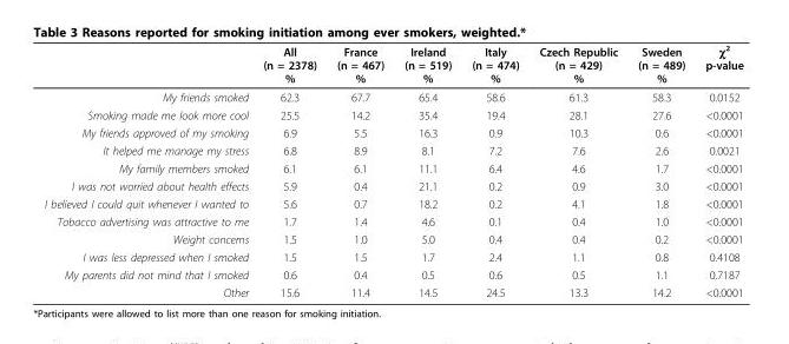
<table><thead><tr><td></td><td>All (n = 2378) %</td><td>France (n = 467) %</td><td>Ireland (n = 519) %</td><td>Italy (n = 474) %</td><td>Czech Republic (n = 429) %</td><td>Sweden (n = 489) %</td><td>χ<sup>2</sup> p-value</td></tr></thead><tbody><tr><td>My friends smoked</td><td>62.3</td><td>67.7</td><td>65.4</td><td>58.6</td><td>61.3</td><td>58.3</td><td>0.0152</td></tr><tr><td>Smoking made me look more cool</td><td>25.5</td><td>14.2</td><td>35.4</td><td>19.4</td><td>28.1</td><td>27.6</td><td>&lt;0.0001</td></tr><tr><td>My friends approved of my smoking</td><td>6.9</td><td>5.5</td><td>16.3</td><td>0.9</td><td>10.3</td><td>0.6</td><td>&lt;0.0001</td></tr><tr><td>It helped me manage my stress</td><td>6.8</td><td>8.9</td><td>8.1</td><td>7.2</td><td>7.6</td><td>2.6</td><td>0.0021</td></tr><tr><td>My family members smoked</td><td>6.1</td><td>6.1</td><td>11.1</td><td>6.4</td><td>4.6</td><td>1.7</td><td>&lt;0.0001</td></tr><tr><td>I was not worried about health effects</td><td>5.9</td><td>0.4</td><td>21.1</td><td>0.2</td><td>0.9</td><td>3.0</td><td>&lt;0.0001</td></tr><tr><td>I believed I could quit whenever I wanted to</td><td>5.6</td><td>0.7</td><td>18.2</td><td>0.2</td><td>4.1</td><td>1.8</td><td>&lt;0.0001</td></tr><tr><td>Tobacco advertising was attractive to me</td><td>1.7</td><td>1.4</td><td>4.6</td><td>0.1</td><td>0.4</td><td>1.0</td><td>&lt;0.0001</td></tr><tr><td>Weight concerns</td><td>1.5</td><td>1.0</td><td>5.0</td><td>0.4</td><td>0.4</td><td>0.2</td><td>&lt;0.0001</td></tr><tr><td>I was less depressed when I smoked</td><td>1.5</td><td>1.5</td><td>1.7</td><td>2.4</td><td>1.1</td><td>0.8</td><td>0.4108</td></tr><tr><td>My parents did not mind that I smoked</td><td>0.6</td><td>0.4</td><td>0.5</td><td>0.6</td><td>0.5</td><td>1.1</td><td>0.7187</td></tr><tr><td>Other</td><td>15.6</td><td>11.4</td><td>14.5</td><td>24.5</td><td>13.3</td><td>14.2</td><td>&lt;0.0001</td></tr></tbody></table>